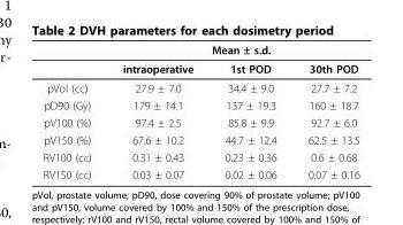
<table><thead><tr><td rowspan="2"></td><td colspan="3">Mean ± s.d.</td></tr><tr><td>intraoperative</td><td>1st POD</td><td>30th POD</td></tr></thead><tbody><tr><td>pVol (cc)</td><td>27.9 ± 7.0</td><td>34.4 ± 9.0</td><td>27.7 ± 7.2</td></tr><tr><td>pD90 (Gy)</td><td>179 ± 14.1</td><td>137 ± 19.3</td><td>160 ± 18.7</td></tr><tr><td>pV100 (%)</td><td>97.4 ± 2.5</td><td>85.8 ± 9.9</td><td>92.7 ± 6.0</td></tr><tr><td>pV150 (%)</td><td>67.6 ± 10.2</td><td>44.7 ± 12.4</td><td>62.5 ± 13.5</td></tr><tr><td>RV100 (cc)</td><td>0.31 ± 0.43</td><td>0.23 ± 0.36</td><td>0.6 ± 0.68</td></tr><tr><td>RV150 (cc)</td><td>0.03 ± 0.07</td><td>0.02 ± 0.06</td><td>0.07 ± 0.16</td></tr></tbody></table>